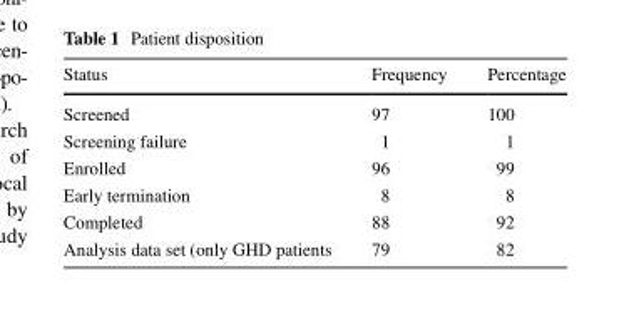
<table><thead><tr><td>Status</td><td>Frequency</td><td>Percentage</td></tr></thead><tbody><tr><td>Screened</td><td>97</td><td>100</td></tr><tr><td>Screening failure</td><td>1</td><td>1</td></tr><tr><td>Enrolled</td><td>96</td><td>99</td></tr><tr><td>Early termination</td><td>8</td><td>8</td></tr><tr><td>Completed</td><td>88</td><td>92</td></tr><tr><td>Analysis data set (only GHD patients</td><td>79</td><td>82</td></tr></tbody></table>